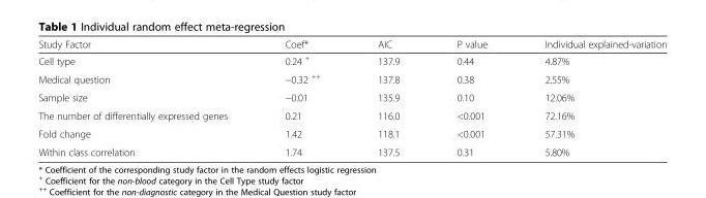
<table><thead><tr><td>Study Factor</td><td>Coef*</td><td>AIC</td><td>P value</td><td>Individual explained-variation</td></tr></thead><tbody><tr><td>Cell type</td><td>0.24 <sup>+</sup></td><td>137.9</td><td>0.44</td><td>4.87%</td></tr><tr><td>Medical question</td><td>−0.32 <sup>++</sup></td><td>137.8</td><td>0.38</td><td>2.55%</td></tr><tr><td>Sample size</td><td>−0.01</td><td>135.9</td><td>0.10</td><td>12.06%</td></tr><tr><td>The number of differentially expressed genes</td><td>0.21</td><td>116.0</td><td>&lt;0.001</td><td>72.16%</td></tr><tr><td>Fold change</td><td>1.42</td><td>118.1</td><td>&lt;0.001</td><td>57.31%</td></tr><tr><td>Within class correlation</td><td>1.74</td><td>137.5</td><td>0.31</td><td>5.80%</td></tr></tbody></table>